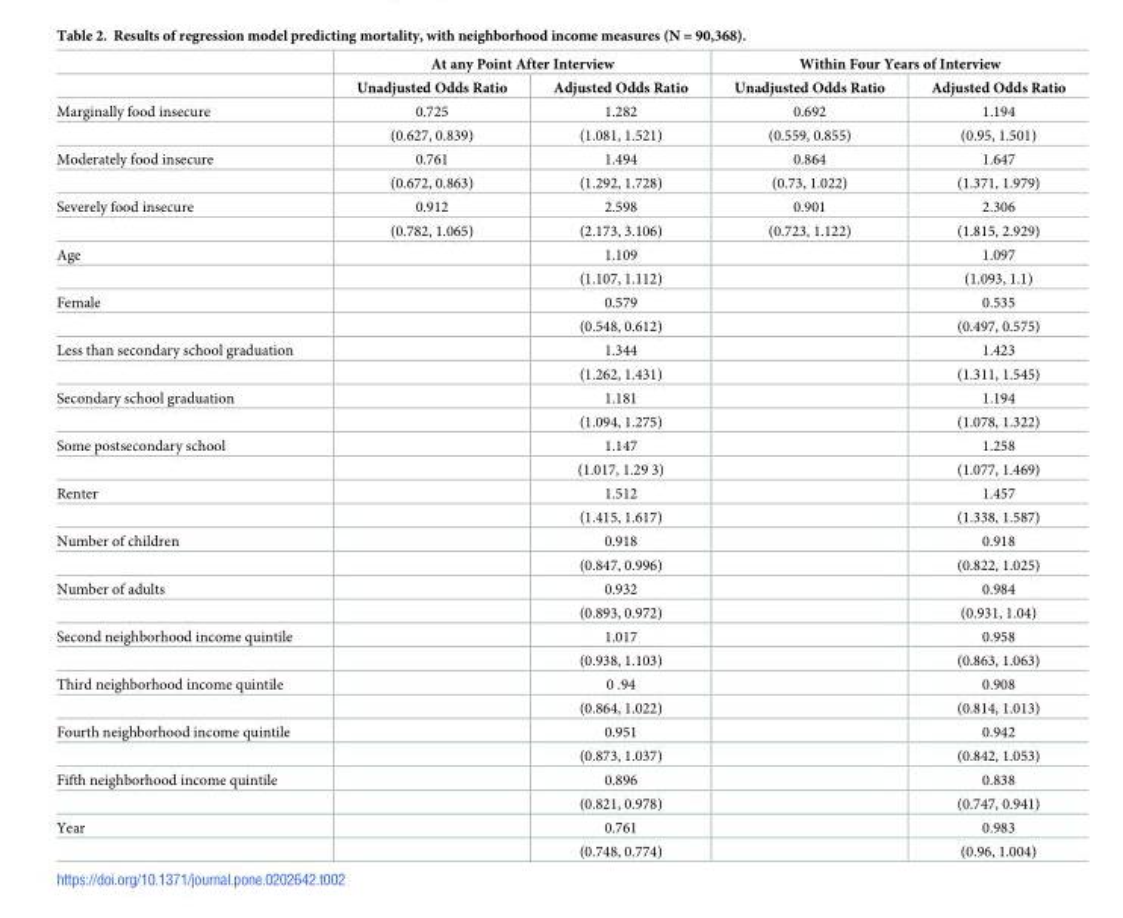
<table><thead><tr><td rowspan="2"></td><td colspan="2">At any Point After Interview</td><td colspan="2">Within Four Years of Interview</td></tr><tr><td>Unadjusted Odds Ratio</td><td>Adjusted Odds Ratio</td><td>Unadjusted Odds Ratio</td><td>Adjusted Odds Ratio</td></tr></thead><tbody><tr><td rowspan="2">Marginally food insecure</td><td>0.725</td><td>1.282</td><td>0.692</td><td>1.194</td></tr><tr><td>(0.627, 0.839)</td><td>(1.081, 1.521)</td><td>(0.559, 0.855)</td><td>(0.95, 1.501)</td></tr><tr><td rowspan="2">Moderately food insecure</td><td>0.761</td><td>1.494</td><td>0.864</td><td>1.647</td></tr><tr><td>(0.672, 0.863)</td><td>(1.292, 1.728)</td><td>(0.73, 1.022)</td><td>(1.371, 1.979)</td></tr><tr><td rowspan="2">Severely food insecure</td><td>0.912</td><td>2.598</td><td>0.901</td><td>2.306</td></tr><tr><td>(0.782, 1.065)</td><td>(2.173, 3.106)</td><td>(0.723, 1.122)</td><td>(1.815, 2.929)</td></tr><tr><td rowspan="2">Age</td><td></td><td>1.109</td><td></td><td>1.097</td></tr><tr><td></td><td>(1.107, 1.112)</td><td></td><td>(1.093, 1.1)</td></tr><tr><td rowspan="2">Female</td><td></td><td>0.579</td><td></td><td>0.535</td></tr><tr><td></td><td>(0.548, 0.612)</td><td></td><td>(0.497, 0.575)</td></tr><tr><td rowspan="2">Less than secondary school graduation</td><td></td><td>1.344</td><td></td><td>1.423</td></tr><tr><td></td><td>(1.262, 1.431)</td><td></td><td>(1.311, 1.545)</td></tr><tr><td rowspan="2">Secondary school graduation</td><td></td><td>1.181</td><td></td><td>1.194</td></tr><tr><td></td><td>(1.094, 1.275)</td><td></td><td>(1.078, 1.322)</td></tr><tr><td rowspan="2">Some postsecondary school</td><td></td><td>1.147</td><td></td><td>1.258</td></tr><tr><td></td><td>(1.017, 1.29 3)</td><td></td><td>(1.077, 1.469)</td></tr><tr><td rowspan="2">Renter</td><td></td><td>1.512</td><td></td><td>1.457</td></tr><tr><td></td><td>(1.415, 1.617)</td><td></td><td>(1.338, 1.587)</td></tr><tr><td rowspan="2">Number of children</td><td></td><td>0.918</td><td></td><td>0.918</td></tr><tr><td></td><td>(0.847, 0.996)</td><td></td><td>(0.822, 1.025)</td></tr><tr><td rowspan="2">Number of adults</td><td></td><td>0.932</td><td></td><td>0.984</td></tr><tr><td></td><td>(0.893, 0.972)</td><td></td><td>(0.931, 1.04)</td></tr><tr><td rowspan="2">Second neighborhood income quintile</td><td></td><td>1.017</td><td></td><td>0.958</td></tr><tr><td></td><td>(0.938, 1.103)</td><td></td><td>(0.863, 1.063)</td></tr><tr><td rowspan="2">Third neighborhood income quintile</td><td></td><td>0 .94</td><td></td><td>0.908</td></tr><tr><td></td><td>(0.864, 1.022)</td><td></td><td>(0.814, 1.013)</td></tr><tr><td rowspan="2">Fourth neighborhood income quintile</td><td></td><td>0.951</td><td></td><td>0.942</td></tr><tr><td></td><td>(0.873, 1.037)</td><td></td><td>(0.842, 1.053)</td></tr><tr><td rowspan="2">Fifth neighborhood income quintile</td><td></td><td>0.896</td><td></td><td>0.838</td></tr><tr><td></td><td>(0.821, 0.978)</td><td></td><td>(0.747, 0.941)</td></tr><tr><td rowspan="2">Year</td><td></td><td>0.761</td><td></td><td>0.983</td></tr><tr><td></td><td>(0.748, 0.774)</td><td></td><td>(0.96, 1.004)</td></tr></tbody></table>